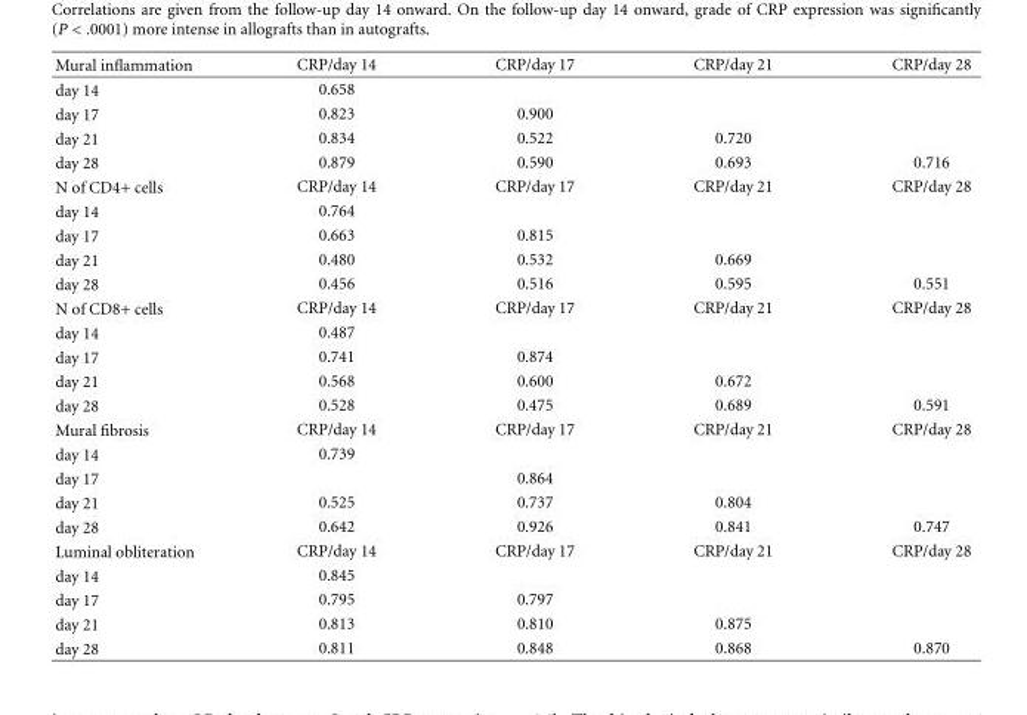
<table><thead><tr><td>Mural inflammation</td><td>CRP/day 14</td><td>CRP/day 17</td><td>CRP/day 21</td><td>CRP/day 28</td></tr></thead><tbody><tr><td>day 14</td><td>0.658</td><td></td><td></td><td></td></tr><tr><td>day 17</td><td>0.823</td><td>0.900</td><td></td><td></td></tr><tr><td>day 21</td><td>0.834</td><td>0.522</td><td>0.720</td><td></td></tr><tr><td>day 28</td><td>0.879</td><td>0.590</td><td>0.693</td><td>0.716</td></tr><tr><td>N of CD4+ cells</td><td>CRP/day 14</td><td>CRP/day 17</td><td>CRP/day 21</td><td>CRP/day 28</td></tr><tr><td>day 14</td><td>0.764</td><td></td><td></td><td></td></tr><tr><td>day 17</td><td>0.663</td><td>0.815</td><td></td><td></td></tr><tr><td>day 21</td><td>0.480</td><td>0.532</td><td>0.669</td><td></td></tr><tr><td>day 28</td><td>0.456</td><td>0.516</td><td>0.595</td><td>0.551</td></tr><tr><td>N of CD8+ cells</td><td>CRP/day 14</td><td>CRP/day 17</td><td>CRP/day 21</td><td>CRP/day 28</td></tr><tr><td>day 14</td><td>0.487</td><td></td><td></td><td></td></tr><tr><td>day 17</td><td>0.741</td><td>0.874</td><td></td><td></td></tr><tr><td>day 21</td><td>0.568</td><td>0.600</td><td>0.672</td><td></td></tr><tr><td>day 28</td><td>0.528</td><td>0.475</td><td>0.689</td><td>0.591</td></tr><tr><td>Mural fibrosis</td><td>CRP/day 14</td><td>CRP/day 17</td><td>CRP/day 21</td><td>CRP/day 28</td></tr><tr><td>day 14</td><td>0.739</td><td></td><td></td><td></td></tr><tr><td>day 17</td><td></td><td>0.864</td><td></td><td></td></tr><tr><td>day 21</td><td>0.525</td><td>0.737</td><td>0.804</td><td></td></tr><tr><td>day 28</td><td>0.642</td><td>0.926</td><td>0.841</td><td>0.747</td></tr><tr><td>Luminal obliteration</td><td>CRP/day 14</td><td>CRP/day 17</td><td>CRP/day 21</td><td>CRP/day 28</td></tr><tr><td>day 14</td><td>0.845</td><td></td><td></td><td></td></tr><tr><td>day 17</td><td>0.795</td><td>0.797</td><td></td><td></td></tr><tr><td>day 21</td><td>0.813</td><td>0.810</td><td>0.875</td><td></td></tr><tr><td>day 28</td><td>0.811</td><td>0.848</td><td>0.868</td><td>0.870</td></tr></tbody></table>